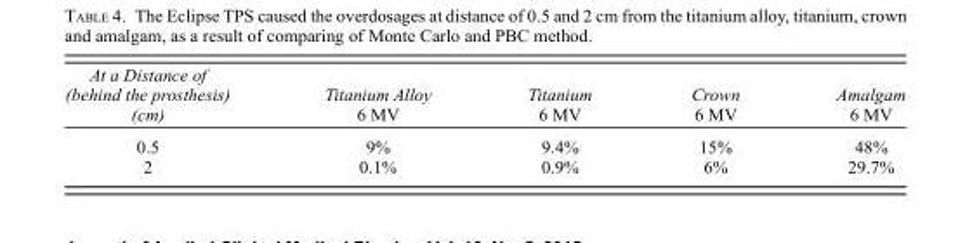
<table><thead><tr><td>At a Distance of (behind the prosthesis) (cm)</td><td>Titanium Alloy 6 MV</td><td>Titanium 6 MV</td><td>Crown 6 MV</td><td>Amalgam 6 MV</td></tr></thead><tbody><tr><td>0.5</td><td>9%</td><td>9.4%</td><td>15%</td><td>48%</td></tr><tr><td>2</td><td>0.1%</td><td>0.9%</td><td>6%</td><td>29.7%</td></tr></tbody></table>